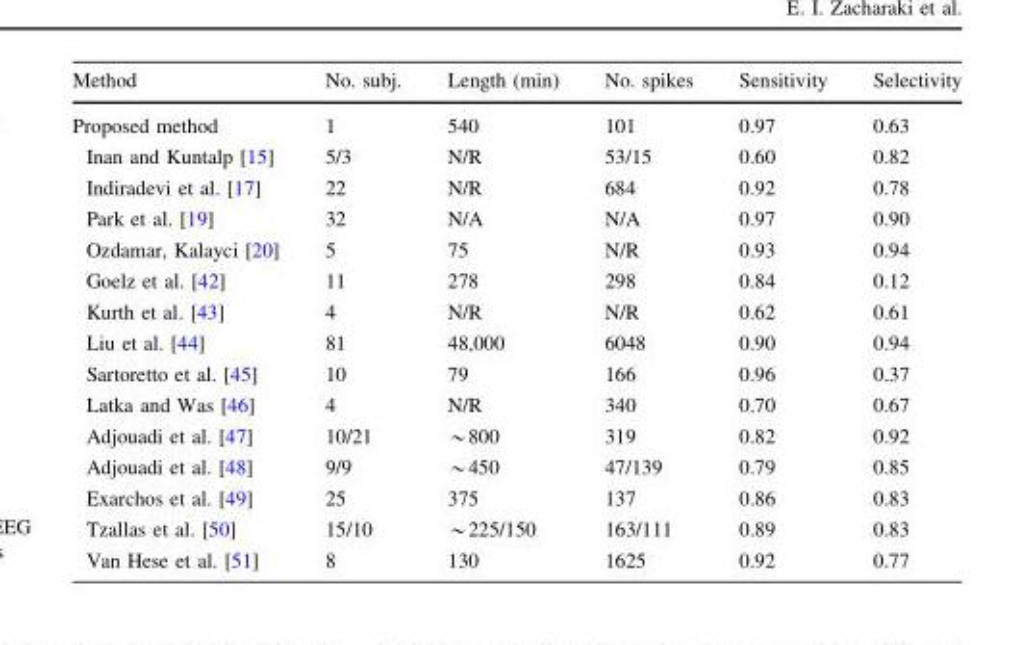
<table><thead><tr><td>Method</td><td>No. subj.</td><td>Length (min)</td><td>No. spikes</td><td>Sensitivity</td><td>Selectivity</td></tr></thead><tbody><tr><td>Proposed method</td><td>1</td><td>540</td><td>101</td><td>0.97</td><td>0.63</td></tr><tr><td>Inan and Kuntalp [15]</td><td>5/3</td><td>N/R</td><td>53/15</td><td>0.60</td><td>0.82</td></tr><tr><td>Indiradevi et al. [17]</td><td>22</td><td>N/R</td><td>684</td><td>0.92</td><td>0.78</td></tr><tr><td>Park et al. [19]</td><td>32</td><td>N/A</td><td>N/A</td><td>0.97</td><td>0.90</td></tr><tr><td>Ozdamar, Kalayci [20]</td><td>5</td><td>75</td><td>N/R</td><td>0.93</td><td>0.94</td></tr><tr><td>Goelz et al. [42]</td><td>11</td><td>278</td><td>298</td><td>0.84</td><td>0.12</td></tr><tr><td>Kurth et al. [43]</td><td>4</td><td>N/R</td><td>N/R</td><td>0.62</td><td>0.61</td></tr><tr><td>Liu et al. [44]</td><td>81</td><td>48,000</td><td>6048</td><td>0.90</td><td>0.94</td></tr><tr><td>Sartoretto et al. [45]</td><td>10</td><td>79</td><td>166</td><td>0.96</td><td>0.37</td></tr><tr><td>Latka and Was [46]</td><td>4</td><td>N/R</td><td>340</td><td>0.70</td><td>0.67</td></tr><tr><td>Adjouadi et al. [47]</td><td>10/21</td><td>*800</td><td>319</td><td>0.82</td><td>0.92</td></tr><tr><td>Adjouadi et al. [48]</td><td>9/9</td><td>*450</td><td>47/139</td><td>0.79</td><td>0.85</td></tr><tr><td>Exarchos et al. [49]</td><td>25</td><td>375</td><td>137</td><td>0.86</td><td>0.83</td></tr><tr><td>Tzallas et al. [50]</td><td>15/10</td><td>*225/150</td><td>163/111</td><td>0.89</td><td>0.83</td></tr><tr><td>Van Hese et al. [51]</td><td>8</td><td>130</td><td>1625</td><td>0.92</td><td>0.77</td></tr></tbody></table>